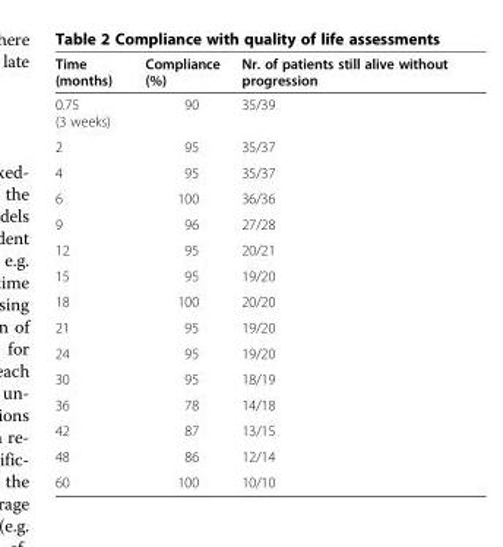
<table><thead><tr><td>Time (months)</td><td>Compliance (%)</td><td>Nr. of patients still alive without progression</td></tr></thead><tbody><tr><td>0.75 (3 weeks)</td><td>90</td><td>35/39</td></tr><tr><td>2</td><td>95</td><td>35/37</td></tr><tr><td>4</td><td>95</td><td>35/37</td></tr><tr><td>6</td><td>100</td><td>36/36</td></tr><tr><td>9</td><td>96</td><td>27/28</td></tr><tr><td>12</td><td>95</td><td>20/21</td></tr><tr><td>15</td><td>95</td><td>19/20</td></tr><tr><td>18</td><td>100</td><td>20/20</td></tr><tr><td>21</td><td>95</td><td>19/20</td></tr><tr><td>24</td><td>95</td><td>19/20</td></tr><tr><td>30</td><td>95</td><td>18/19</td></tr><tr><td>36</td><td>78</td><td>14/18</td></tr><tr><td>42</td><td>87</td><td>13/15</td></tr><tr><td>48</td><td>86</td><td>12/14</td></tr><tr><td>60</td><td>100</td><td>10/10</td></tr></tbody></table>